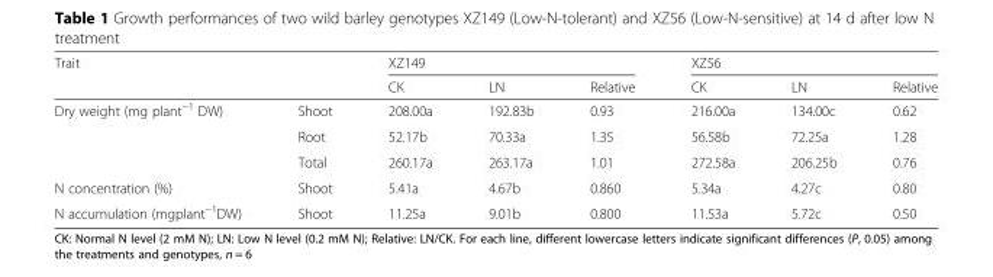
<table><thead><tr><td rowspan="2">Trait</td><td rowspan="2"></td><td colspan="3">XZ149</td><td colspan="3">XZ56</td></tr><tr><td>CK</td><td>LN</td><td>Relative</td><td>CK</td><td>LN</td><td>Relative</td></tr></thead><tbody><tr><td rowspan="3">Dry weight (mg plant<sup>−1</sup> DW)</td><td>Shoot</td><td>208.00a</td><td>192.83b</td><td>0.93</td><td>216.00a</td><td>134.00c</td><td>0.62</td></tr><tr><td>Root</td><td>52.17b</td><td>70.33a</td><td>1.35</td><td>56.58b</td><td>72.25a</td><td>1.28</td></tr><tr><td>Total</td><td>260.17a</td><td>263.17a</td><td>1.01</td><td>272.58a</td><td>206.25b</td><td>0.76</td></tr><tr><td>N concentration (%)</td><td>Shoot</td><td>5.41a</td><td>4.67b</td><td>0.860</td><td>5.34a</td><td>4.27c</td><td>0.80</td></tr><tr><td>N accumulation (mgplant<sup>−1</sup>DW)</td><td>Shoot</td><td>11.25a</td><td>9.01b</td><td>0.800</td><td>11.53a</td><td>5.72c</td><td>0.50</td></tr></tbody></table>